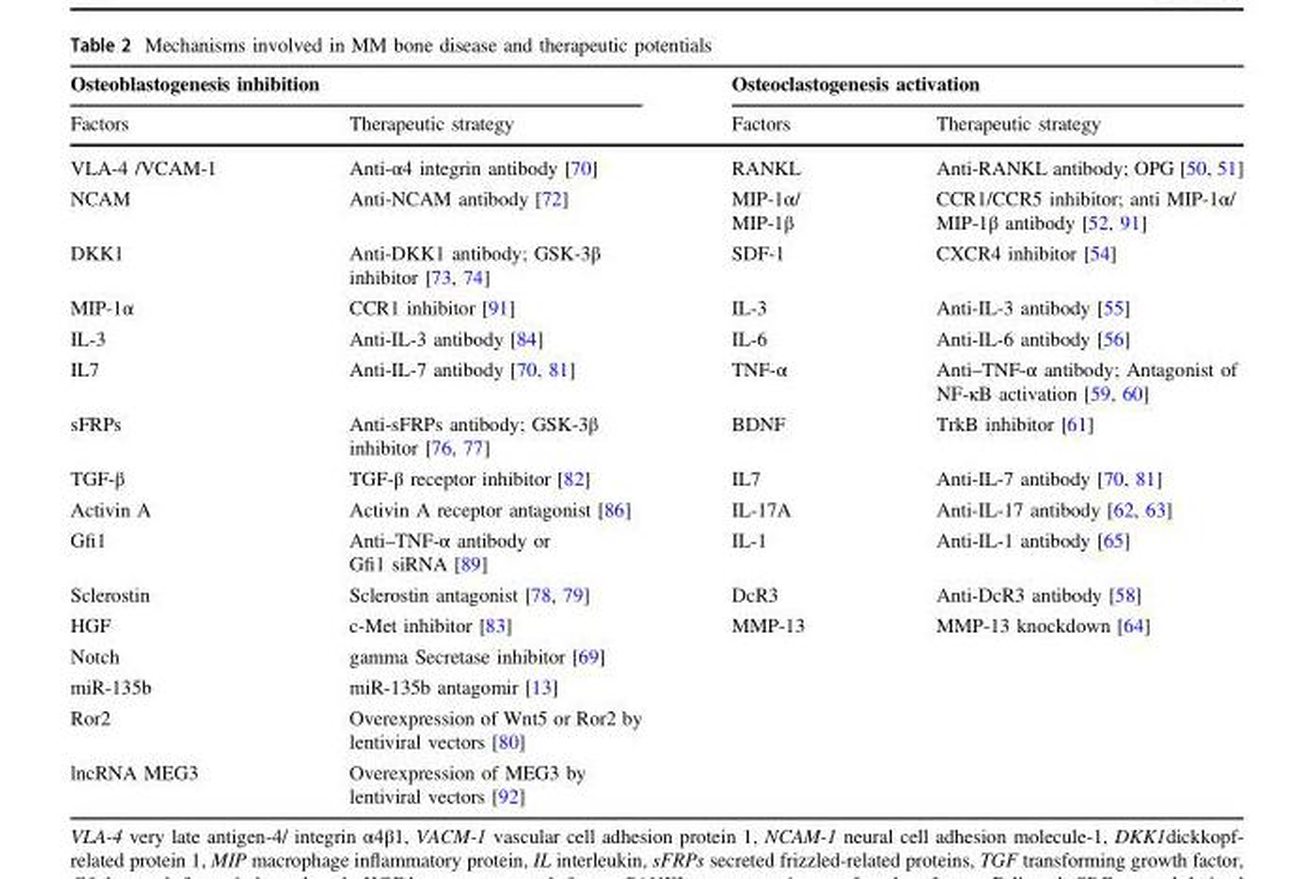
<table><thead><tr><td colspan="2">Osteoblastogenesis inhibition</td><td colspan="2">Osteoclastogenesis activation</td></tr><tr><td>Factors</td><td>Therapeutic strategy</td><td>Factors</td><td>Therapeutic strategy</td></tr></thead><tbody><tr><td>VLA-4 /VCAM-1</td><td>Anti-α4 integrin antibody [70]</td><td>RANKL</td><td>Anti-RANKL antibody; OPG [50, 51]</td></tr><tr><td>NCAM</td><td>Anti-NCAM antibody [72]</td><td>MIP-1α/ MIP-1β</td><td>CCR1/CCR5 inhibitor; anti MIP-1α/ MIP-1β antibody [52, 91]</td></tr><tr><td>DKK1</td><td>Anti-DKK1 antibody; GSK-3β inhibitor [73, 74]</td><td>SDF-1</td><td>CXCR4 inhibitor [54]</td></tr><tr><td>MIP-1α</td><td>CCR1 inhibitor [91]</td><td>IL-3</td><td>Anti-IL-3 antibody [55]</td></tr><tr><td>IL-3</td><td>Anti-IL-3 antibody [84]</td><td>IL-6</td><td>Anti-IL-6 antibody [56]</td></tr><tr><td>IL7</td><td>Anti-IL-7 antibody [70, 81]</td><td>TNF-α</td><td>Anti–TNF-α antibody; Antagonist of NF-κB activation [59, 60]</td></tr><tr><td>sFRPs</td><td>Anti-sFRPs antibody; GSK-3β inhibitor [76, 77]</td><td>BDNF</td><td>TrkB inhibitor [61]</td></tr><tr><td>TGF-β</td><td>TGF-β receptor inhibitor [82]</td><td>IL7</td><td>Anti-IL-7 antibody [70, 81]</td></tr><tr><td>Activin A</td><td>Activin A receptor antagonist [86]</td><td>IL-17A</td><td>Anti-IL-17 antibody [62, 63]</td></tr><tr><td>Gfi1</td><td>Anti–TNF-α antibody or Gfi1 siRNA [89]</td><td>IL-1</td><td>Anti-IL-1 antibody [65]</td></tr><tr><td>Sclerostin</td><td>Sclerostin antagonist [78, 79]</td><td>DcR3</td><td>Anti-DcR3 antibody [58]</td></tr><tr><td>HGF</td><td>c-Met inhibitor [83]</td><td>MMP-13</td><td>MMP-13 knockdown [64]</td></tr><tr><td>Notch</td><td>gamma Secretase inhibitor [69]</td><td></td><td></td></tr><tr><td>miR-135b</td><td>miR-135b antagomir [13]</td><td></td><td></td></tr><tr><td>Ror2</td><td>Overexpression of Wnt5 or Ror2 by lentiviral vectors [80]</td><td></td><td></td></tr><tr><td>lncRNA MEG3</td><td>Overexpression of MEG3 by lentiviral vectors [92]</td><td></td><td></td></tr></tbody></table>